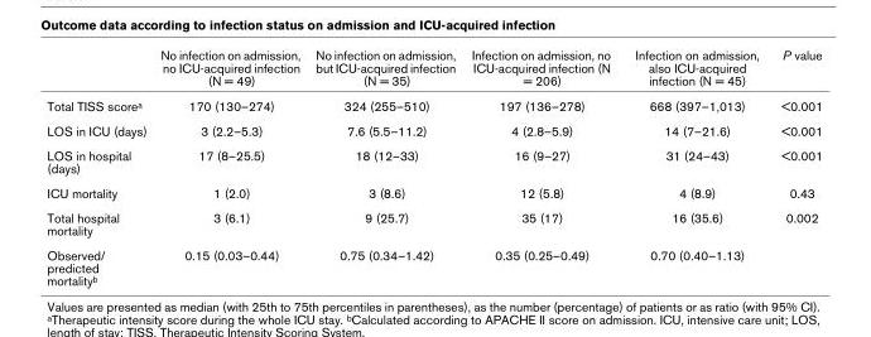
<table><thead><tr><td></td><td>No infection on admission, no ICU-acquired infection (N = 49)</td><td>No infection on admission, but ICU-acquired infection (N = 35)</td><td>Infection on admission, no ICU-acquired infection (N = 206)</td><td>Infection on admission, also ICU-acquired infection (N = 45)</td><td>P value</td></tr></thead><tbody><tr><td>Total TISS scorea</td><td>170 (130–274)</td><td>324 (255–510)</td><td>197 (136–278)</td><td>668 (397–1,013)</td><td>&lt;0.001</td></tr><tr><td>LOS in ICU (days)</td><td>3 (2.2–5.3)</td><td>7.6 (5.5–11.2)</td><td>4 (2.8–5.9)</td><td>14 (7–21.6)</td><td>&lt;0.001</td></tr><tr><td>LOS in hospital (days)</td><td>17 (8–25.5)</td><td>18 (12–33)</td><td>16 (9–27)</td><td>31 (24–43)</td><td>&lt;0.001</td></tr><tr><td>ICU mortality</td><td>1 (2.0)</td><td>3 (8.6)</td><td>12 (5.8)</td><td>4 (8.9)</td><td>0.43</td></tr><tr><td>Total hospital mortality</td><td>3 (6.1)</td><td>9 (25.7)</td><td>35 (17)</td><td>16 (35.6)</td><td>0.002</td></tr><tr><td>Observed/ predicted mortalityb</td><td>0.15 (0.03–0.44)</td><td>0.75 (0.34–1.42)</td><td>0.35 (0.25–0.49)</td><td>0.70 (0.40–1.13)</td><td></td></tr></tbody></table>